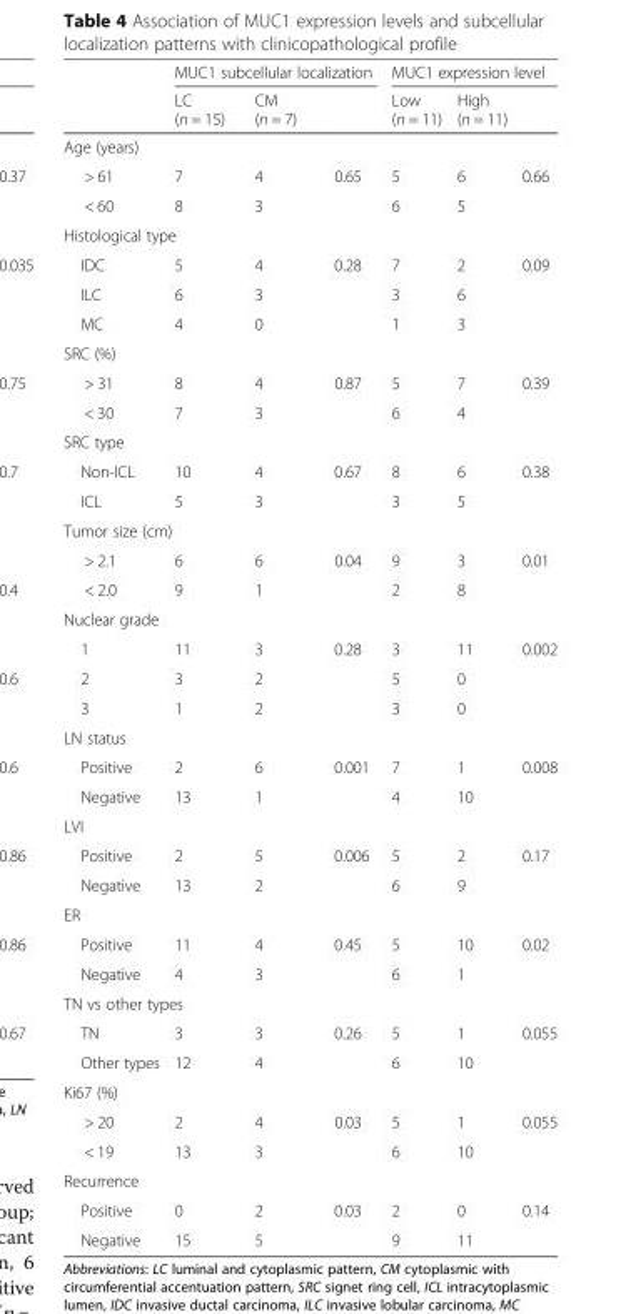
<table><thead><tr><td rowspan="2"></td><td colspan="3">MUC1 subcellular localization</td><td colspan="3">MUC1 expression level</td></tr><tr><td>LC (n = 15)</td><td>CM (n = 7)</td><td></td><td>Low (n = 11)</td><td>High (n = 11)</td><td></td></tr></thead><tbody><tr><td colspan="7">Age (years)</td></tr><tr><td>&gt; 61</td><td>7</td><td>4</td><td>0.65</td><td>5</td><td>6</td><td>0.66</td></tr><tr><td>&lt; 60</td><td>8</td><td>3</td><td></td><td>6</td><td>5</td><td></td></tr><tr><td colspan="7">Histological type</td></tr><tr><td>IDC</td><td>5</td><td>4</td><td>0.28</td><td>7</td><td>2</td><td>0.09</td></tr><tr><td>ILC</td><td>6</td><td>3</td><td></td><td>3</td><td>6</td><td></td></tr><tr><td>MC</td><td>4</td><td>0</td><td></td><td>1</td><td>3</td><td></td></tr><tr><td colspan="7">SRC (%)</td></tr><tr><td>&gt; 31</td><td>8</td><td>4</td><td>0.87</td><td>5</td><td>7</td><td>0.39</td></tr><tr><td>&lt; 30</td><td>7</td><td>3</td><td></td><td>6</td><td>4</td><td></td></tr><tr><td colspan="7">SRC type</td></tr><tr><td>Non-ICL</td><td>10</td><td>4</td><td>0.67</td><td>8</td><td>6</td><td>0.38</td></tr><tr><td>ICL</td><td>5</td><td>3</td><td></td><td>3</td><td>5</td><td></td></tr><tr><td colspan="7">Tumor size (cm)</td></tr><tr><td>&gt; 2.1</td><td>6</td><td>6</td><td>0.04</td><td>9</td><td>3</td><td>0.01</td></tr><tr><td>&lt; 2.0</td><td>9</td><td>1</td><td></td><td>2</td><td>8</td><td></td></tr><tr><td colspan="7">Nuclear grade</td></tr><tr><td>1</td><td>11</td><td>3</td><td>0.28</td><td>3</td><td>11</td><td>0.002</td></tr><tr><td>2</td><td>3</td><td>2</td><td></td><td>5</td><td>0</td><td></td></tr><tr><td>3</td><td>1</td><td>2</td><td></td><td>3</td><td>0</td><td></td></tr><tr><td colspan="7">LN status</td></tr><tr><td>Positive</td><td>2</td><td>6</td><td>0.001</td><td>7</td><td>1</td><td>0.008</td></tr><tr><td>Negative</td><td>13</td><td>1</td><td></td><td>4</td><td>10</td><td></td></tr><tr><td colspan="7">LVI</td></tr><tr><td>Positive</td><td>2</td><td>5</td><td>0.006</td><td>5</td><td>2</td><td>0.17</td></tr><tr><td>Negative</td><td>13</td><td>2</td><td></td><td>6</td><td>9</td><td></td></tr><tr><td colspan="7">ER</td></tr><tr><td>Positive</td><td>11</td><td>4</td><td>0.45</td><td>5</td><td>10</td><td>0.02</td></tr><tr><td>Negative</td><td>4</td><td>3</td><td></td><td>6</td><td>1</td><td></td></tr><tr><td colspan="7">TN vs other types</td></tr><tr><td>TN</td><td>3</td><td>3</td><td>0.26</td><td>5</td><td>1</td><td>0.055</td></tr><tr><td>Other types</td><td>12</td><td>4</td><td></td><td>6</td><td>10</td><td></td></tr><tr><td colspan="7">Ki67 (%)</td></tr><tr><td>&gt; 20</td><td>2</td><td>4</td><td>0.03</td><td>5</td><td>1</td><td>0.055</td></tr><tr><td>&lt; 19</td><td>13</td><td>3</td><td></td><td>6</td><td>10</td><td></td></tr><tr><td colspan="7">Recurrence</td></tr><tr><td>Positive</td><td>0</td><td>2</td><td>0.03</td><td>2</td><td>0</td><td>0.14</td></tr><tr><td>Negative</td><td>15</td><td>5</td><td></td><td>9</td><td>11</td><td></td></tr></tbody></table>